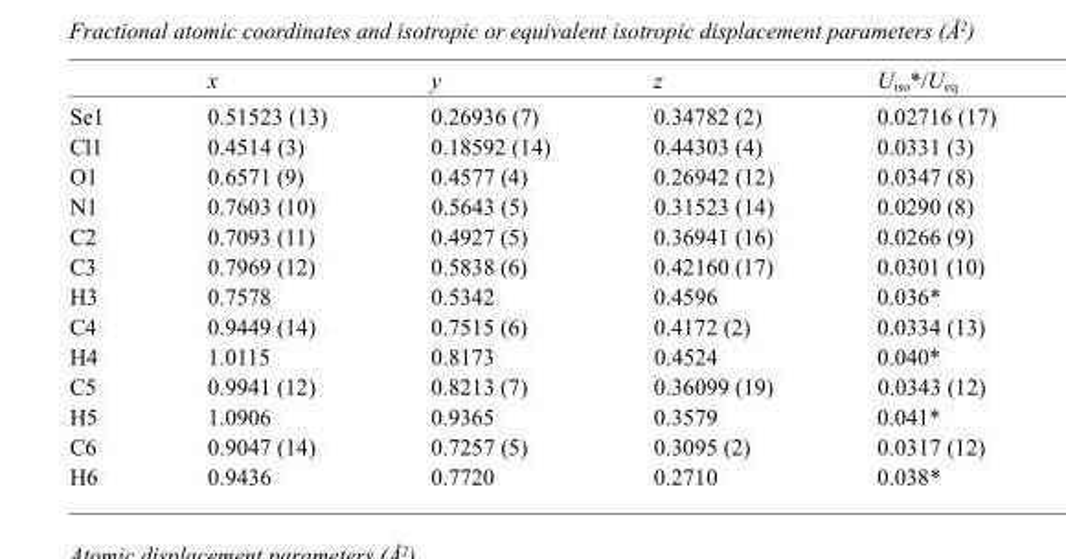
<table><thead><tr><td></td><td>x</td><td>y</td><td>z</td><td>U<sub>iso</sub>*/U<sub>eq</sub></td></tr></thead><tbody><tr><td>Se1</td><td>0.51523 (13)</td><td>0.26936 (7)</td><td>0.34782 (2)</td><td>0.02716 (17)</td></tr><tr><td>Cl1</td><td>0.4514 (3)</td><td>0.18592 (14)</td><td>0.44303 (4)</td><td>0.0331 (3)</td></tr><tr><td>O1</td><td>0.6571 (9)</td><td>0.4577 (4)</td><td>0.26942 (12)</td><td>0.0347 (8)</td></tr><tr><td>N1</td><td>0.7603 (10)</td><td>0.5643 (5)</td><td>0.31523 (14)</td><td>0.0290 (8)</td></tr><tr><td>C2</td><td>0.7093 (11)</td><td>0.4927 (5)</td><td>0.36941 (16)</td><td>0.0266 (9)</td></tr><tr><td>C3</td><td>0.7969 (12)</td><td>0.5838 (6)</td><td>0.42160 (17)</td><td>0.0301 (10)</td></tr><tr><td>H3</td><td>0.7578</td><td>0.5342</td><td>0.4596</td><td>0.036*</td></tr><tr><td>C4</td><td>0.9449 (14)</td><td>0.7515 (6)</td><td>0.4172 (2)</td><td>0.0334 (13)</td></tr><tr><td>H4</td><td>1.0115</td><td>0.8173</td><td>0.4524</td><td>0.040*</td></tr><tr><td>C5</td><td>0.9941 (12)</td><td>0.8213 (7)</td><td>0.36099 (19)</td><td>0.0343 (12)</td></tr><tr><td>H5</td><td>1.0906</td><td>0.9365</td><td>0.3579</td><td>0.041*</td></tr><tr><td>C6</td><td>0.9047 (14)</td><td>0.7257 (5)</td><td>0.3095 (2)</td><td>0.0317 (12)</td></tr><tr><td>H6</td><td>0.9436</td><td>0.7720</td><td>0.2710</td><td>0.038*</td></tr></tbody></table>